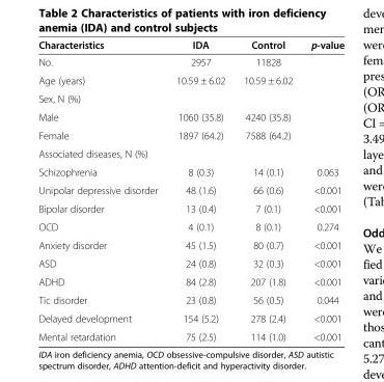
<table><thead><tr><td>Characteristics</td><td>IDA</td><td>Control</td><td>p-value</td></tr></thead><tbody><tr><td>No.</td><td>2957</td><td>11828</td><td></td></tr><tr><td>Age (years)</td><td>10.59 ± 6.02</td><td>10.59 ± 6.02</td><td></td></tr><tr><td colspan="4">Sex, N (%)</td></tr><tr><td>Male</td><td>1060 (35.8)</td><td>4240 (35.8)</td><td></td></tr><tr><td>Female</td><td>1897 (64.2)</td><td>7588 (64.2)</td><td></td></tr><tr><td colspan="4">Associated diseases, N (%)</td></tr><tr><td>Schizophrenia</td><td>8 (0.3)</td><td>14 (0.1)</td><td>0.063</td></tr><tr><td>Unipolar depressive disorder</td><td>48 (1.6)</td><td>66 (0.6)</td><td>&lt;0.001</td></tr><tr><td>Bipolar disorder</td><td>13 (0.4)</td><td>7 (0.1)</td><td>&lt;0.001</td></tr><tr><td>OCD</td><td>4 (0.1)</td><td>8 (0.1)</td><td>0.274</td></tr><tr><td>Anxiety disorder</td><td>45 (1.5)</td><td>80 (0.7)</td><td>&lt;0.001</td></tr><tr><td>ASD</td><td>24 (0.8)</td><td>32 (0.3)</td><td>&lt;0.001</td></tr><tr><td>ADHD</td><td>84 (2.8)</td><td>207 (1.8)</td><td>&lt;0.001</td></tr><tr><td>Tic disorder</td><td>23 (0.8)</td><td>56 (0.5)</td><td>0.044</td></tr><tr><td>Delayed development</td><td>154 (5.2)</td><td>278 (2.4)</td><td>&lt;0.001</td></tr><tr><td>Mental retardation</td><td>75 (2.5)</td><td>114 (1.0)</td><td>&lt;0.001</td></tr></tbody></table>